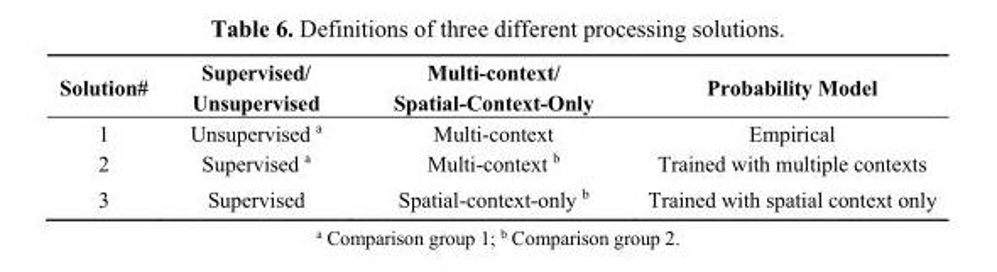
<table><thead><tr><td>Solution#</td><td>Supervised/ Unsupervised</td><td>Multi-context/ Spatial-Context-Only</td><td>Probability Model</td></tr></thead><tbody><tr><td>1</td><td>Unsupervised <sup>a</sup></td><td>Multi-context</td><td>Empirical</td></tr><tr><td>2</td><td>Supervised <sup>a</sup></td><td>Multi-context <sup>b</sup></td><td>Trained with multiple contexts</td></tr><tr><td>3</td><td>Supervised</td><td>Spatial-context-only <sup>b</sup></td><td>Trained with spatial context only</td></tr></tbody></table>